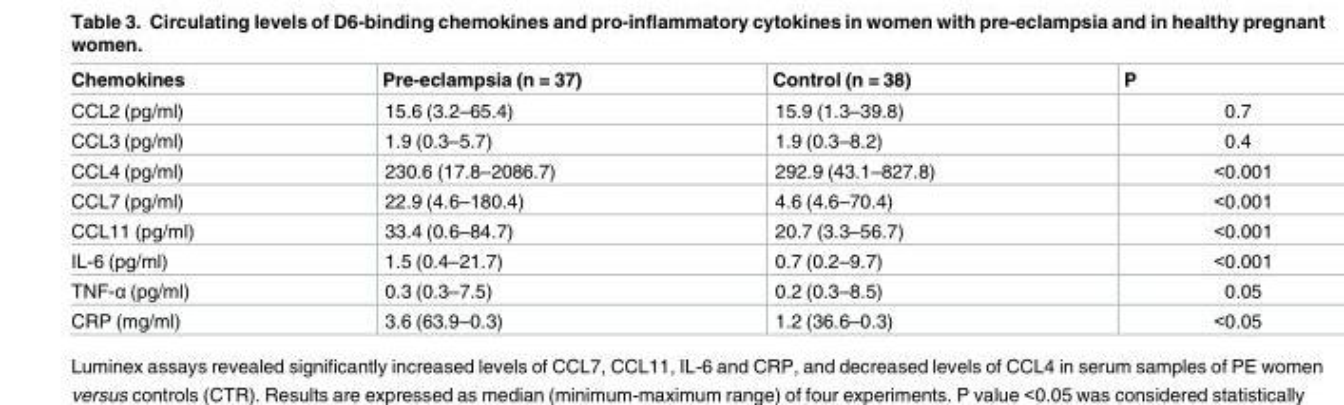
<table><thead><tr><td>Chemokines</td><td>Pre-eclampsia (n = 37)</td><td>Control (n = 38)</td><td>P</td></tr></thead><tbody><tr><td>CCL2 (pg/ml)</td><td>15.6 (3.2–65.4)</td><td>15.9 (1.3–39.8)</td><td>0.7</td></tr><tr><td>CCL3 (pg/ml)</td><td>1.9 (0.3–5.7)</td><td>1.9 (0.3–8.2)</td><td>0.4</td></tr><tr><td>CCL4 (pg/ml)</td><td>230.6 (17.8–2086.7)</td><td>292.9 (43.1–827.8)</td><td>&lt;0.001</td></tr><tr><td>CCL7 (pg/ml)</td><td>22.9 (4.6–180.4)</td><td>4.6 (4.6–70.4)</td><td>&lt;0.001</td></tr><tr><td>CCL11 (pg/ml)</td><td>33.4 (0.6–84.7)</td><td>20.7 (3.3–56.7)</td><td>&lt;0.001</td></tr><tr><td>IL-6 (pg/ml)</td><td>1.5 (0.4–21.7)</td><td>0.7 (0.2–9.7)</td><td>&lt;0.001</td></tr><tr><td>TNF-α (pg/ml)</td><td>0.3 (0.3–7.5)</td><td>0.2 (0.3–8.5)</td><td>0.05</td></tr><tr><td>CRP (mg/ml)</td><td>3.6 (63.9–0.3)</td><td>1.2 (36.6–0.3)</td><td>&lt;0.05</td></tr></tbody></table>